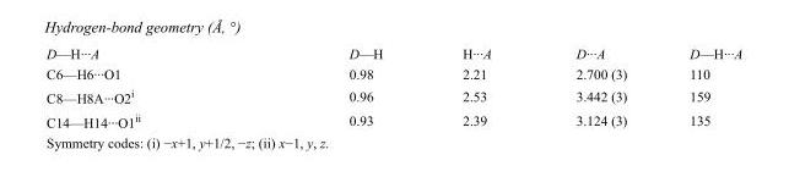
<table><tbody><tr><td>D—H···A</td><td>D—H</td><td>H···A</td><td>D···A</td><td>D—H···A</td></tr><tr><td>C6—H6···O1</td><td>0.98</td><td>2.21</td><td>2.700 (3)</td><td>110</td></tr><tr><td>C8—H8A···O2<sup>i</sup></td><td>0.96</td><td>2.53</td><td>3.442 (3)</td><td>159</td></tr><tr><td>C14—H14···O1<sup>ii</sup></td><td>0.93</td><td>2.39</td><td>3.124 (3)</td><td>135</td></tr></tbody></table>